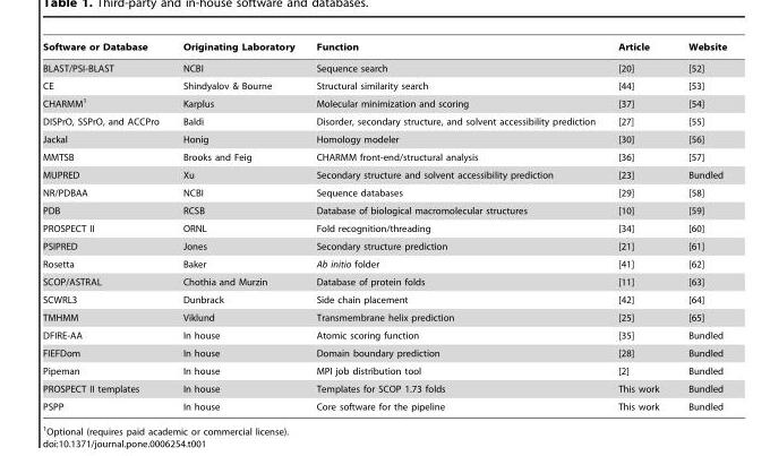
<table><thead><tr><td>Software or Database</td><td>Originating Laboratory</td><td>Function</td><td>Article</td><td>Website</td></tr></thead><tbody><tr><td>BLAST/PSI-BLAST</td><td>NCBI</td><td>Sequence search</td><td>[20]</td><td>[52]</td></tr><tr><td>CE</td><td>Shindyalov &amp; Bourne</td><td>Structural similarity search</td><td>[44]</td><td>[53]</td></tr><tr><td>CHARMM<sup>1</sup></td><td>Karplus</td><td>Molecular minimization and scoring</td><td>[37]</td><td>[54]</td></tr><tr><td>DISPrO, SSPrO, and ACCPro</td><td>Baldi</td><td>Disorder, secondary structure, and solvent accessibility prediction</td><td>[27]</td><td>[55]</td></tr><tr><td>Jackal</td><td>Honig</td><td>Homology modeler</td><td>[30]</td><td>[56]</td></tr><tr><td>MMTSB</td><td>Brooks and Feig</td><td>CHARMM front-end/structural analysis</td><td>[36]</td><td>[57]</td></tr><tr><td>MUPRED</td><td>Xu</td><td>Secondary structure and solvent accessibility prediction</td><td>[23]</td><td>Bundled</td></tr><tr><td>NR/PDBAA</td><td>NCBI</td><td>Sequence databases</td><td>[29]</td><td>[58]</td></tr><tr><td>PDB</td><td>RCSB</td><td>Database of biological macromolecular structures</td><td>[10]</td><td>[59]</td></tr><tr><td>PROSPECT II</td><td>ORNL</td><td>Fold recognition/threading</td><td>[34]</td><td>[60]</td></tr><tr><td>PSIPRED</td><td>Jones</td><td>Secondary structure prediction</td><td>[21]</td><td>[61]</td></tr><tr><td>Rosetta</td><td>Baker</td><td>Ab initio folder</td><td>[41]</td><td>[62]</td></tr><tr><td>SCOP/ASTRAL</td><td>Chothia and Murzin</td><td>Database of protein folds</td><td>[11]</td><td>[63]</td></tr><tr><td>SCWRL3</td><td>Dunbrack</td><td>Side chain placement</td><td>[42]</td><td>[64]</td></tr><tr><td>TMHMM</td><td>Viklund</td><td>Transmembrane helix prediction</td><td>[25]</td><td>[65]</td></tr><tr><td>DFIRE-AA</td><td>In house</td><td>Atomic scoring function</td><td>[35]</td><td>Bundled</td></tr><tr><td>FIEFDom</td><td>In house</td><td>Domain boundary prediction</td><td>[28]</td><td>Bundled</td></tr><tr><td>Pipeman</td><td>In house</td><td>MPI job distribution tool</td><td>[2]</td><td>Bundled</td></tr><tr><td>PROSPECT II templates</td><td>In house</td><td>Templates for SCOP 1.73 folds</td><td>This work</td><td>Bundled</td></tr><tr><td>PSPP</td><td>In house</td><td>Core software for the pipeline</td><td>This work</td><td>Bundled</td></tr></tbody></table>